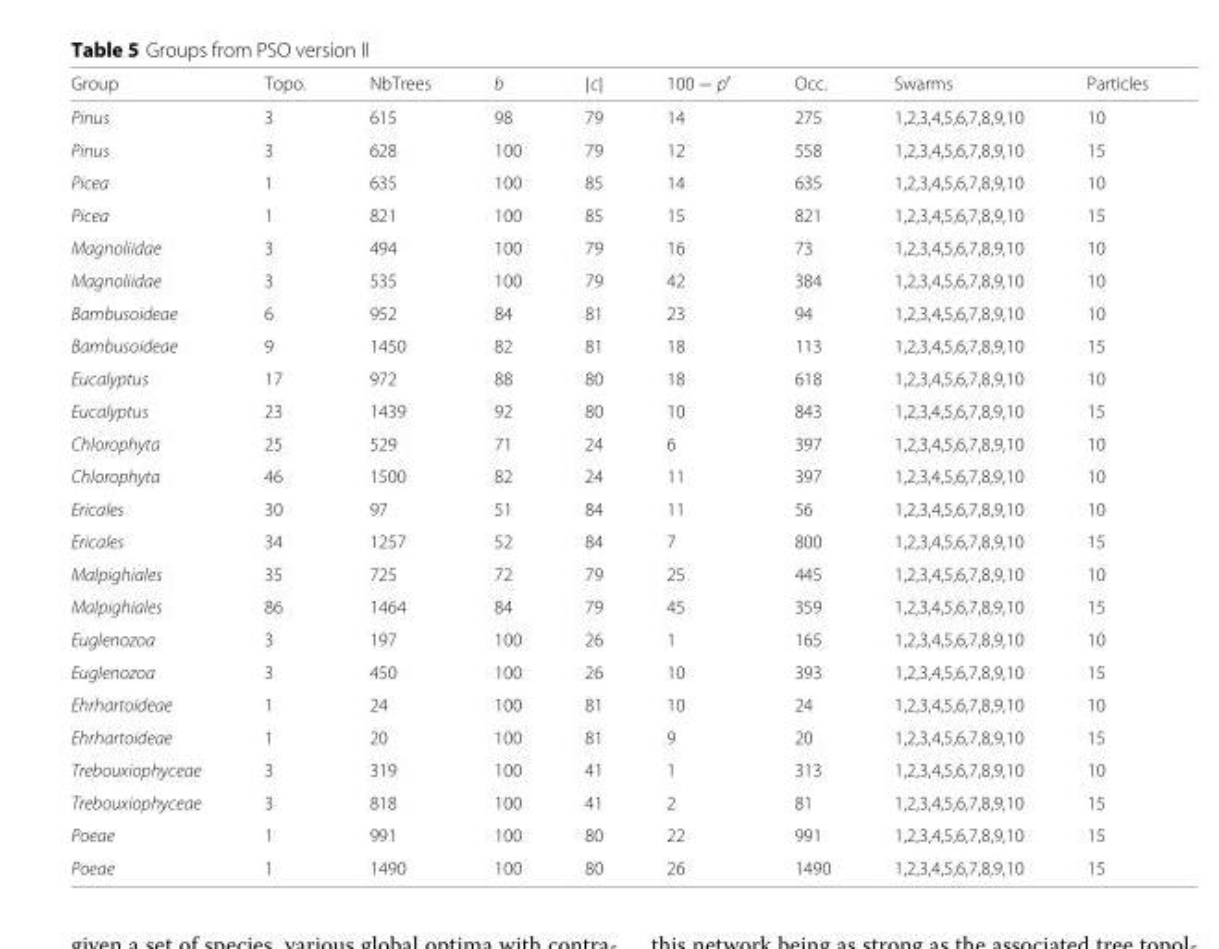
<table><thead><tr><td>Group</td><td>Topo.</td><td>NbTrees</td><td>b</td><td>|c|</td><td>100 − p<sup>′</sup></td><td>Occ.</td><td>Swarms</td><td>Particles</td></tr></thead><tbody><tr><td>Pinus</td><td>3</td><td>615</td><td>98</td><td>79</td><td>14</td><td>275</td><td>1,2,3,4,5,6,7,8,9,10</td><td>10</td></tr><tr><td>Pinus</td><td>3</td><td>628</td><td>100</td><td>79</td><td>12</td><td>558</td><td>1,2,3,4,5,6,7,8,9,10</td><td>15</td></tr><tr><td>Picea</td><td>1</td><td>635</td><td>100</td><td>85</td><td>14</td><td>635</td><td>1,2,3,4,5,6,7,8,9,10</td><td>10</td></tr><tr><td>Picea</td><td>1</td><td>821</td><td>100</td><td>85</td><td>15</td><td>821</td><td>1,2,3,4,5,6,7,8,9,10</td><td>15</td></tr><tr><td>Magnoliidae</td><td>3</td><td>494</td><td>100</td><td>79</td><td>16</td><td>73</td><td>1,2,3,4,5,6,7,8,9,10</td><td>10</td></tr><tr><td>Magnoliidae</td><td>3</td><td>535</td><td>100</td><td>79</td><td>42</td><td>384</td><td>1,2,3,4,5,6,7,8,9,10</td><td>10</td></tr><tr><td>Bambusoideae</td><td>6</td><td>952</td><td>84</td><td>81</td><td>23</td><td>94</td><td>1,2,3,4,5,6,7,8,9,10</td><td>10</td></tr><tr><td>Bambusoideae</td><td>9</td><td>1450</td><td>82</td><td>81</td><td>18</td><td>113</td><td>1,2,3,4,5,6,7,8,9,10</td><td>15</td></tr><tr><td>Eucalyptus</td><td>17</td><td>972</td><td>88</td><td>80</td><td>18</td><td>618</td><td>1,2,3,4,5,6,7,8,9,10</td><td>10</td></tr><tr><td>Eucalyptus</td><td>23</td><td>1439</td><td>92</td><td>80</td><td>10</td><td>843</td><td>1,2,3,4,5,6,7,8,9,10</td><td>15</td></tr><tr><td>Chlorophyta</td><td>25</td><td>529</td><td>71</td><td>24</td><td>6</td><td>397</td><td>1,2,3,4,5,6,7,8,9,10</td><td>10</td></tr><tr><td>Chlorophyta</td><td>46</td><td>1500</td><td>82</td><td>24</td><td>11</td><td>397</td><td>1,2,3,4,5,6,7,8,9,10</td><td>10</td></tr><tr><td>Ericales</td><td>30</td><td>97</td><td>51</td><td>84</td><td>11</td><td>56</td><td>1,2,3,4,5,6,7,8,9,10</td><td>10</td></tr><tr><td>Ericales</td><td>34</td><td>1257</td><td>52</td><td>84</td><td>7</td><td>800</td><td>1,2,3,4,5,6,7,8,9,10</td><td>15</td></tr><tr><td>Malpighiales</td><td>35</td><td>725</td><td>72</td><td>79</td><td>25</td><td>445</td><td>1,2,3,4,5,6,7,8,9,10</td><td>10</td></tr><tr><td>Malpighiales</td><td>86</td><td>1464</td><td>84</td><td>79</td><td>45</td><td>359</td><td>1,2,3,4,5,6,7,8,9,10</td><td>15</td></tr><tr><td>Euglenozoa</td><td>3</td><td>197</td><td>100</td><td>26</td><td>1</td><td>165</td><td>1,2,3,4,5,6,7,8,9,10</td><td>10</td></tr><tr><td>Euglenozoa</td><td>3</td><td>450</td><td>100</td><td>26</td><td>10</td><td>393</td><td>1,2,3,4,5,6,7,8,9,10</td><td>15</td></tr><tr><td>Ehrhartoideae</td><td>1</td><td>24</td><td>100</td><td>81</td><td>10</td><td>24</td><td>1,2,3,4,5,6,7,8,9,10</td><td>10</td></tr><tr><td>Ehrhartoideae</td><td>1</td><td>20</td><td>100</td><td>81</td><td>9</td><td>20</td><td>1,2,3,4,5,6,7,8,9,10</td><td>15</td></tr><tr><td>Trebouxiophyceae</td><td>3</td><td>319</td><td>100</td><td>41</td><td>1</td><td>313</td><td>1,2,3,4,5,6,7,8,9,10</td><td>10</td></tr><tr><td>Trebouxiophyceae</td><td>3</td><td>818</td><td>100</td><td>41</td><td>2</td><td>81</td><td>1,2,3,4,5,6,7,8,9,10</td><td>15</td></tr><tr><td>Poeae</td><td>1</td><td>991</td><td>100</td><td>80</td><td>22</td><td>991</td><td>1,2,3,4,5,6,7,8,9,10</td><td>15</td></tr><tr><td>Poeae</td><td>1</td><td>1490</td><td>100</td><td>80</td><td>26</td><td>1490</td><td>1,2,3,4,5,6,7,8,9,10</td><td>15</td></tr></tbody></table>